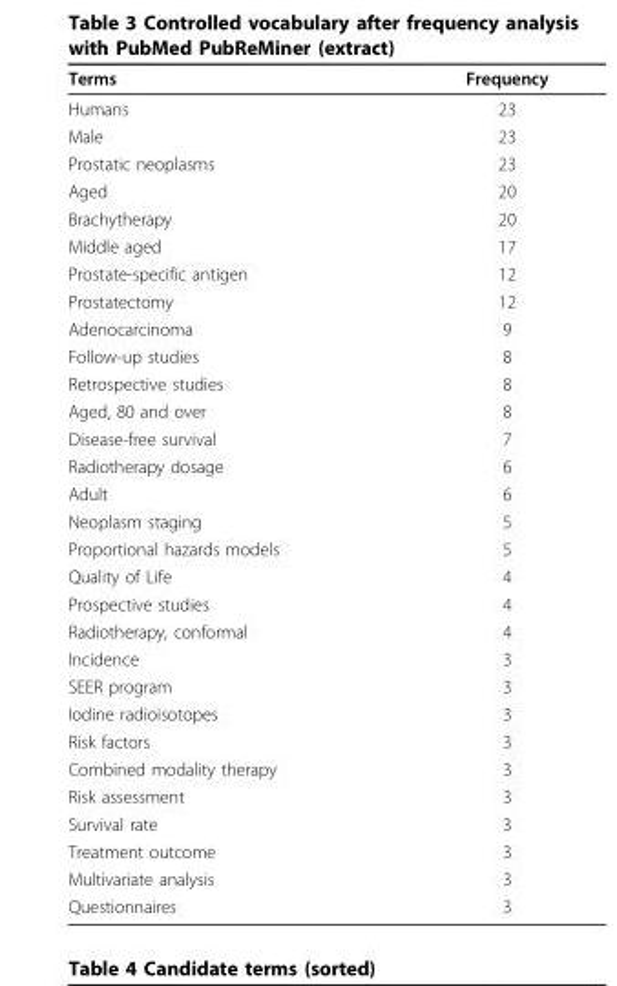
<table><thead><tr><td>Terms</td><td>Frequency</td></tr></thead><tbody><tr><td>Humans</td><td>23</td></tr><tr><td>Male</td><td>23</td></tr><tr><td>Prostatic neoplasms</td><td>23</td></tr><tr><td>Aged</td><td>20</td></tr><tr><td>Brachytherapy</td><td>20</td></tr><tr><td>Middle aged</td><td>17</td></tr><tr><td>Prostate-specific antigen</td><td>12</td></tr><tr><td>Prostatectomy</td><td>12</td></tr><tr><td>Adenocarcinoma</td><td>9</td></tr><tr><td>Follow-up studies</td><td>8</td></tr><tr><td>Retrospective studies</td><td>8</td></tr><tr><td>Aged, 80 and over</td><td>8</td></tr><tr><td>Disease-free survival</td><td>7</td></tr><tr><td>Radiotherapy dosage</td><td>6</td></tr><tr><td>Adult</td><td>6</td></tr><tr><td>Neoplasm staging</td><td>5</td></tr><tr><td>Proportional hazards models</td><td>5</td></tr><tr><td>Quality of Life</td><td>4</td></tr><tr><td>Prospective studies</td><td>4</td></tr><tr><td>Radiotherapy, conformal</td><td>4</td></tr><tr><td>Incidence</td><td>3</td></tr><tr><td>SEER program</td><td>3</td></tr><tr><td>Iodine radioisotopes</td><td>3</td></tr><tr><td>Risk factors</td><td>3</td></tr><tr><td>Combined modality therapy</td><td>3</td></tr><tr><td>Risk assessment</td><td>3</td></tr><tr><td>Survival rate</td><td>3</td></tr><tr><td>Treatment outcome</td><td>3</td></tr><tr><td>Multivariate analysis</td><td>3</td></tr><tr><td>Questionnaires</td><td>3</td></tr></tbody></table>